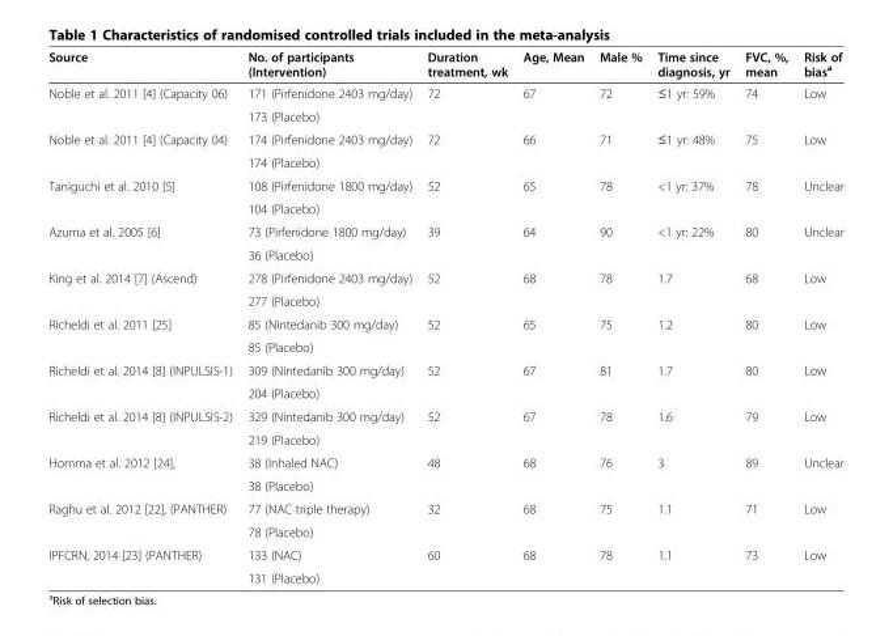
<table><thead><tr><td>Source</td><td>No. of participants (Intervention)</td><td>Duration treatment, wk</td><td>Age, Mean</td><td>Male %</td><td>Time since diagnosis, yr</td><td>FVC, %, mean</td><td>Risk of bias<sup>a</sup></td></tr></thead><tbody><tr><td rowspan="2">Noble et al. 2011 [4] (Capacity 06)</td><td>171 (Pirfenidone 2403 mg/day)</td><td>72</td><td>67</td><td>72</td><td>≤1 yr: 59%</td><td>74</td><td>Low</td></tr><tr><td>173 (Placebo)</td><td></td><td></td><td></td><td></td><td></td><td></td></tr><tr><td rowspan="2">Noble et al. 2011 [4] (Capacity 04)</td><td>174 (Pirfenidone 2403 mg/day)</td><td>72</td><td>66</td><td>71</td><td>≤1 yr: 48%</td><td>75</td><td>Low</td></tr><tr><td>174 (Placebo)</td><td></td><td></td><td></td><td></td><td></td><td></td></tr><tr><td rowspan="2">Taniguchi et al. 2010 [5]</td><td>108 (Pirfenidone 1800 mg/day)</td><td>52</td><td>65</td><td>78</td><td>&lt;1 yr: 37%</td><td>78</td><td>Unclear</td></tr><tr><td>104 (Placebo)</td><td></td><td></td><td></td><td></td><td></td><td></td></tr><tr><td rowspan="2">Azuma et al. 2005 [6]</td><td>73 (Pirfenidone 1800 mg/day)</td><td>39</td><td>64</td><td>90</td><td>&lt;1 yr: 22%</td><td>80</td><td>Unclear</td></tr><tr><td>36 (Placebo)</td><td></td><td></td><td></td><td></td><td></td><td></td></tr><tr><td rowspan="2">King et al. 2014 [7] (Ascend)</td><td>278 (Pirfenidone 2403 mg/day)</td><td>52</td><td>68</td><td>78</td><td>1.7</td><td>68</td><td>Low</td></tr><tr><td>277 (Placebo)</td><td></td><td></td><td></td><td></td><td></td><td></td></tr><tr><td rowspan="2">Richeldi et al. 2011 [25]</td><td>85 (Nintedanib 300 mg/day)</td><td>52</td><td>65</td><td>75</td><td>1.2</td><td>80</td><td>Low</td></tr><tr><td>85 (Placebo)</td><td></td><td></td><td></td><td></td><td></td><td></td></tr><tr><td rowspan="2">Richeldi et al. 2014 [8] (INPULSIS-1)</td><td>309 (Nintedanib 300 mg/day)</td><td>52</td><td>67</td><td>81</td><td>1.7</td><td>80</td><td>Low</td></tr><tr><td>204 (Placebo)</td><td></td><td></td><td></td><td></td><td></td><td></td></tr><tr><td rowspan="2">Richeldi et al. 2014 [8] (INPULSIS-2)</td><td>329 (Nintedanib 300 mg/day)</td><td>52</td><td>67</td><td>78</td><td>1.6</td><td>79</td><td>Low</td></tr><tr><td>219 (Placebo)</td><td></td><td></td><td></td><td></td><td></td><td></td></tr><tr><td rowspan="2">Homma et al. 2012 [24],</td><td>38 (Inhaled NAC)</td><td>48</td><td>68</td><td>76</td><td>3</td><td>89</td><td>Unclear</td></tr><tr><td>38 (Placebo)</td><td></td><td></td><td></td><td></td><td></td><td></td></tr><tr><td rowspan="2">Raghu et al. 2012 [22], (PANTHER)</td><td>77 (NAC triple therapy)</td><td>32</td><td>68</td><td>75</td><td>1.1</td><td>71</td><td>Low</td></tr><tr><td>78 (Placebo)</td><td></td><td></td><td></td><td></td><td></td><td></td></tr><tr><td rowspan="2">IPFCRN, 2014 [23] (PANTHER)</td><td>133 (NAC)</td><td>60</td><td>68</td><td>78</td><td>1.1</td><td>73</td><td>Low</td></tr><tr><td>131 (Placebo)</td><td></td><td></td><td></td><td></td><td></td><td></td></tr></tbody></table>